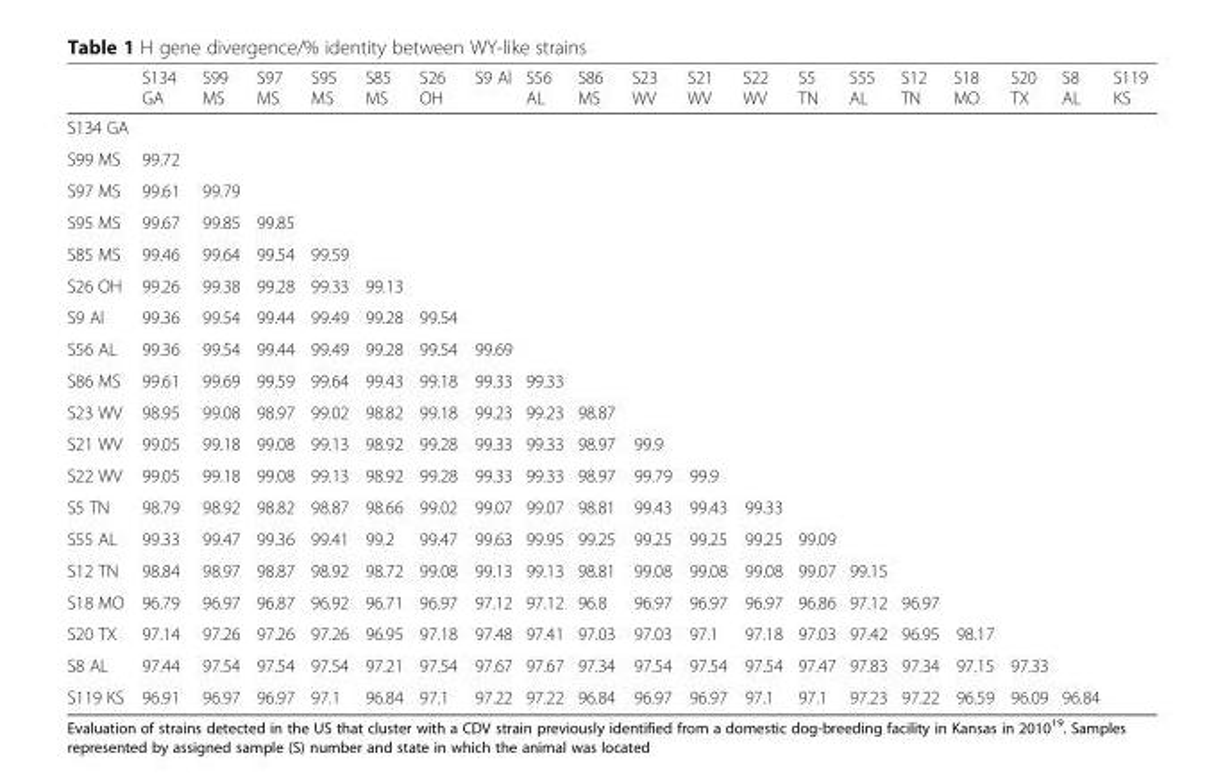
<table><thead><tr><td></td><td>S134 GA</td><td>S99 MS</td><td>S97 MS</td><td>S95 MS</td><td>S85 MS</td><td>S26 OH</td><td>S9 Al</td><td>S56 AL</td><td>S86 MS</td><td>S23 WV</td><td>S21 WV</td><td>S22 WV</td><td>S5 TN</td><td>S55 AL</td><td>S12 TN</td><td>S18 MO</td><td>S20 TX</td><td>S8 AL</td><td>S119 KS</td></tr></thead><tbody><tr><td colspan="20">S134 GA</td></tr><tr><td>S99 MS</td><td>99.72</td><td></td><td></td><td></td><td></td><td></td><td></td><td></td><td></td><td></td><td></td><td></td><td></td><td></td><td></td><td></td><td></td><td></td><td></td></tr><tr><td>S97 MS</td><td>99.61</td><td>99.79</td><td></td><td></td><td></td><td></td><td></td><td></td><td></td><td></td><td></td><td></td><td></td><td></td><td></td><td></td><td></td><td></td><td></td></tr><tr><td>S95 MS</td><td>99.67</td><td>99.85</td><td>99.85</td><td></td><td></td><td></td><td></td><td></td><td></td><td></td><td></td><td></td><td></td><td></td><td></td><td></td><td></td><td></td><td></td></tr><tr><td>S85 MS</td><td>99.46</td><td>99.64</td><td>99.54</td><td>99.59</td><td></td><td></td><td></td><td></td><td></td><td></td><td></td><td></td><td></td><td></td><td></td><td></td><td></td><td></td><td></td></tr><tr><td>S26 OH</td><td>99.26</td><td>99.38</td><td>99.28</td><td>99.33</td><td>99.13</td><td></td><td></td><td></td><td></td><td></td><td></td><td></td><td></td><td></td><td></td><td></td><td></td><td></td><td></td></tr><tr><td>S9 Al</td><td>99.36</td><td>99.54</td><td>99.44</td><td>99.49</td><td>99.28</td><td>99.54</td><td></td><td></td><td></td><td></td><td></td><td></td><td></td><td></td><td></td><td></td><td></td><td></td><td></td></tr><tr><td>S56 AL</td><td>99.36</td><td>99.54</td><td>99.44</td><td>99.49</td><td>99.28</td><td>99.54</td><td>99.69</td><td></td><td></td><td></td><td></td><td></td><td></td><td></td><td></td><td></td><td></td><td></td><td></td></tr><tr><td>S86 MS</td><td>99.61</td><td>99.69</td><td>99.59</td><td>99.64</td><td>99.43</td><td>99.18</td><td>99.33</td><td>99.33</td><td></td><td></td><td></td><td></td><td></td><td></td><td></td><td></td><td></td><td></td><td></td></tr><tr><td>S23 WV</td><td>98.95</td><td>99.08</td><td>98.97</td><td>99.02</td><td>98.82</td><td>99.18</td><td>99.23</td><td>99.23</td><td>98.87</td><td></td><td></td><td></td><td></td><td></td><td></td><td></td><td></td><td></td><td></td></tr><tr><td>S21 WV</td><td>99.05</td><td>99.18</td><td>99.08</td><td>99.13</td><td>98.92</td><td>99.28</td><td>99.33</td><td>99.33</td><td>98.97</td><td>99.9</td><td></td><td></td><td></td><td></td><td></td><td></td><td></td><td></td><td></td></tr><tr><td>S22 WV</td><td>99.05</td><td>99.18</td><td>99.08</td><td>99.13</td><td>98.92</td><td>99.28</td><td>99.33</td><td>99.33</td><td>98.97</td><td>99.79</td><td>99.9</td><td></td><td></td><td></td><td></td><td></td><td></td><td></td><td></td></tr><tr><td>S5 TN</td><td>98.79</td><td>98.92</td><td>98.82</td><td>98.87</td><td>98.66</td><td>99.02</td><td>99.07</td><td>99.07</td><td>98.81</td><td>99.43</td><td>99.43</td><td>99.33</td><td></td><td></td><td></td><td></td><td></td><td></td><td></td></tr><tr><td>S55 AL</td><td>99.33</td><td>99.47</td><td>99.36</td><td>99.41</td><td>99.2</td><td>99.47</td><td>99.63</td><td>99.95</td><td>99.25</td><td>99.25</td><td>99.25</td><td>99.25</td><td>99.09</td><td></td><td></td><td></td><td></td><td></td><td></td></tr><tr><td>S12 TN</td><td>98.84</td><td>98.97</td><td>98.87</td><td>98.92</td><td>98.72</td><td>99.08</td><td>99.13</td><td>99.13</td><td>98.81</td><td>99.08</td><td>99.08</td><td>99.08</td><td>99.07</td><td>99.15</td><td></td><td></td><td></td><td></td><td></td></tr><tr><td>S18 MO</td><td>96.79</td><td>96.97</td><td>96.87</td><td>96.92</td><td>96.71</td><td>96.97</td><td>97.12</td><td>97.12</td><td>96.8</td><td>96.97</td><td>96.97</td><td>96.97</td><td>96.86</td><td>97.12</td><td>96.97</td><td></td><td></td><td></td><td></td></tr><tr><td>S20 TX</td><td>97.14</td><td>97.26</td><td>97.26</td><td>97.26</td><td>96.95</td><td>97.18</td><td>97.48</td><td>97.41</td><td>97.03</td><td>97.03</td><td>97.1</td><td>97.18</td><td>97.03</td><td>97.42</td><td>96.95</td><td>98.17</td><td></td><td></td><td></td></tr><tr><td>S8 AL</td><td>97.44</td><td>97.54</td><td>97.54</td><td>97.54</td><td>97.21</td><td>97.54</td><td>97.67</td><td>97.67</td><td>97.34</td><td>97.54</td><td>97.54</td><td>97.54</td><td>97.47</td><td>97.83</td><td>97.34</td><td>97.15</td><td>97.33</td><td></td><td></td></tr><tr><td>S119 KS</td><td>96.91</td><td>96.97</td><td>96.97</td><td>97.1</td><td>96.84</td><td>97.1</td><td>97.22</td><td>97.22</td><td>96.84</td><td>96.97</td><td>96.97</td><td>97.1</td><td>97.1</td><td>97.23</td><td>97.22</td><td>96.59</td><td>96.09</td><td>96.84</td><td></td></tr></tbody></table>